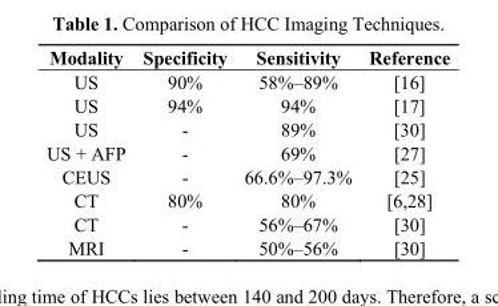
<table><thead><tr><td>Modality</td><td>Specificity</td><td>Sensitivity</td><td>Reference</td></tr></thead><tbody><tr><td>US</td><td>90%</td><td>58%–89%</td><td>[16]</td></tr><tr><td>US</td><td>94%</td><td>94%</td><td>[17]</td></tr><tr><td>US</td><td>-</td><td>89%</td><td>[30]</td></tr><tr><td>US + AFP</td><td>-</td><td>69%</td><td>[27]</td></tr><tr><td>CEUS</td><td>-</td><td>66.6%–97.3%</td><td>[25]</td></tr><tr><td>CT</td><td>80%</td><td>80%</td><td>[6,28]</td></tr><tr><td>CT</td><td>-</td><td>56%–67%</td><td>[30]</td></tr><tr><td>MRI</td><td>-</td><td>50%–56%</td><td>[30]</td></tr></tbody></table>